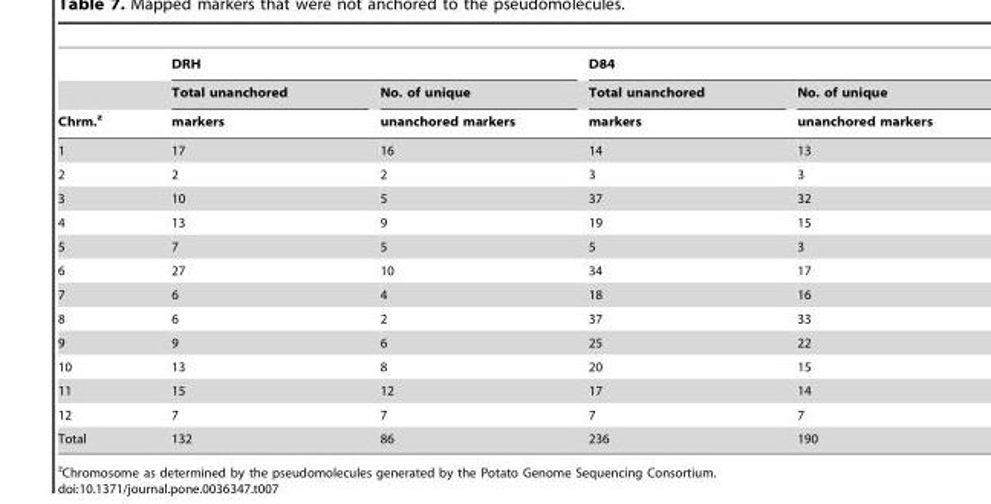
<table><thead><tr><td rowspan="3">Chrm.<sup>z</sup></td><td colspan="2">DRH</td><td colspan="2">D84</td></tr><tr><td rowspan="2">Total unanchored markers</td><td rowspan="2">No. of unique unanchored markers</td><td rowspan="2">Total unanchored markers</td><td rowspan="2">No. of unique unanchored markers</td></tr><tr></tr></thead><tbody><tr><td>1</td><td>17</td><td>16</td><td>14</td><td>13</td></tr><tr><td>2</td><td>2</td><td>2</td><td>3</td><td>3</td></tr><tr><td>3</td><td>10</td><td>5</td><td>37</td><td>32</td></tr><tr><td>4</td><td>13</td><td>9</td><td>19</td><td>15</td></tr><tr><td>5</td><td>7</td><td>5</td><td>5</td><td>3</td></tr><tr><td>6</td><td>27</td><td>10</td><td>34</td><td>17</td></tr><tr><td>7</td><td>6</td><td>4</td><td>18</td><td>16</td></tr><tr><td>8</td><td>6</td><td>2</td><td>37</td><td>33</td></tr><tr><td>9</td><td>9</td><td>6</td><td>25</td><td>22</td></tr><tr><td>10</td><td>13</td><td>8</td><td>20</td><td>15</td></tr><tr><td>11</td><td>15</td><td>12</td><td>17</td><td>14</td></tr><tr><td>12</td><td>7</td><td>7</td><td>7</td><td>7</td></tr><tr><td>Total</td><td>132</td><td>86</td><td>236</td><td>190</td></tr></tbody></table>